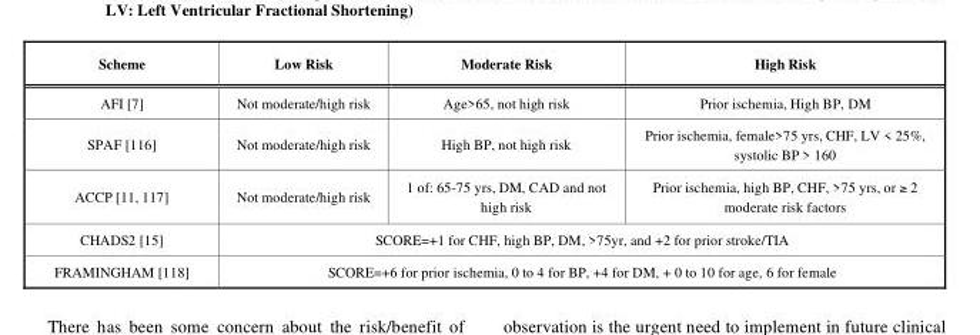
<table><thead><tr><td>Scheme</td><td>Low Risk</td><td>Moderate Risk</td><td>High Risk</td></tr></thead><tbody><tr><td>AFI [7]</td><td>Not moderate/high risk</td><td>Age&gt;65, not high risk</td><td>Prior ischemia, High BP, DM</td></tr><tr><td>SPAF [116]</td><td>Not moderate/high risk</td><td>High BP, not high risk</td><td>Prior ischemia, female&gt;75 yrs, CHF, LV &lt; 25%, systolic BP &gt; 160</td></tr><tr><td>ACCP [11, 117]</td><td>Not moderate/high risk</td><td>1 of: 65-75 yrs, DM, CAD and not high risk</td><td>Prior ischemia, high BP, CHF, &gt;75 yrs, or ≥ 2 moderate risk factors</td></tr><tr><td>CHADS2 [15]</td><td colspan="3">SCORE=+1 for CHF, high BP, DM, &gt;75yr, and +2 for prior stroke/TIA</td></tr><tr><td>FRAMINGHAM [118]</td><td colspan="3">SCORE=+6 for prior ischemia, 0 to 4 for BP, +4 for DM, + 0 to 10 for age, 6 for female</td></tr></tbody></table>